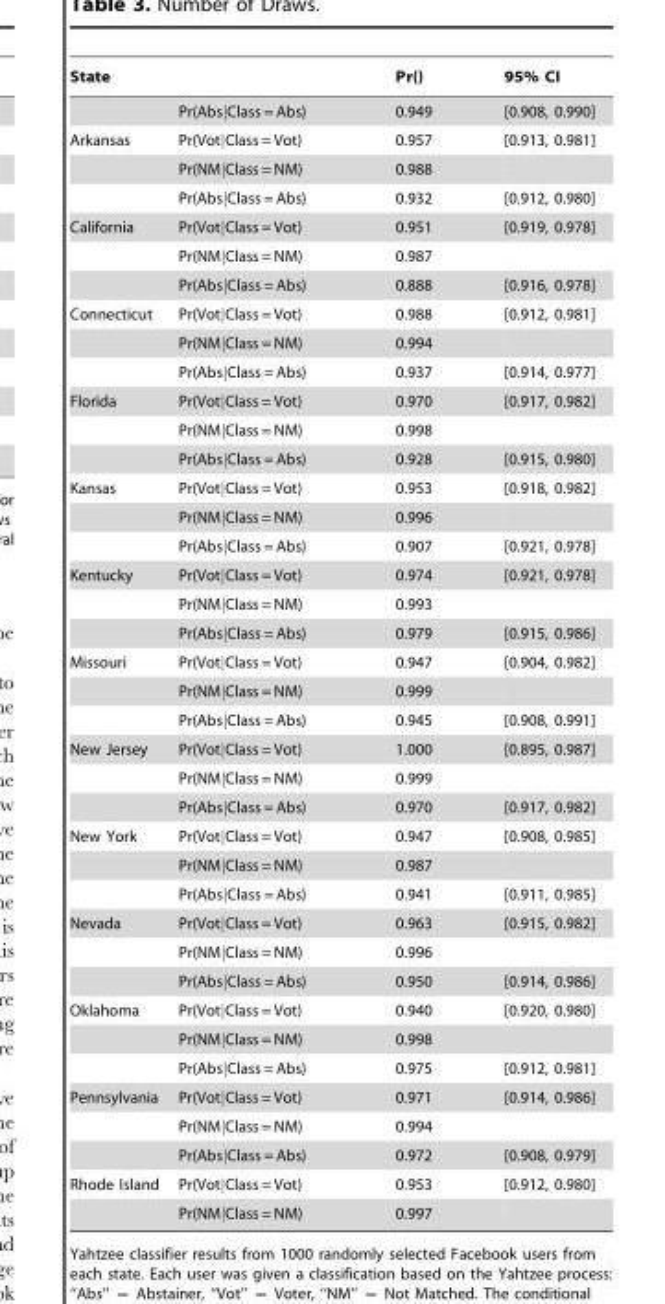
<table><thead><tr><td>State</td><td></td><td>Pr()</td><td>95% CI</td></tr></thead><tbody><tr><td></td><td>Pr(AbsjClass = Abs)</td><td>0.949</td><td>[0.908, 0.990]</td></tr><tr><td rowspan="3">Arkansas</td><td>Pr(VotjClass = Vot)</td><td>0.957</td><td>[0.913, 0.981]</td></tr><tr><td>Pr(NMjClass = NM)</td><td>0.988</td><td></td></tr><tr><td>Pr(AbsjClass = Abs)</td><td>0.932</td><td>[0.912, 0.980]</td></tr><tr><td rowspan="3">California</td><td>Pr(VotjClass = Vot)</td><td>0.951</td><td>[0.919, 0.978]</td></tr><tr><td>Pr(NMjClass = NM)</td><td>0.987</td><td></td></tr><tr><td>Pr(AbsjClass = Abs)</td><td>0.888</td><td>[0.916, 0.978]</td></tr><tr><td rowspan="3">Connecticut</td><td>Pr(VotjClass = Vot)</td><td>0.988</td><td>[0.912, 0.981]</td></tr><tr><td>Pr(NMjClass = NM)</td><td>0.994</td><td></td></tr><tr><td>Pr(AbsjClass = Abs)</td><td>0.937</td><td>[0.914, 0.977]</td></tr><tr><td rowspan="3">Florida</td><td>Pr(VotjClass = Vot)</td><td>0.970</td><td>[0.917, 0.982]</td></tr><tr><td>Pr(NMjClass = NM)</td><td>0.998</td><td></td></tr><tr><td>Pr(AbsjClass = Abs)</td><td>0.928</td><td>[0.915, 0.980]</td></tr><tr><td rowspan="3">Kansas</td><td>Pr(VotjClass = Vot)</td><td>0.953</td><td>[0.918, 0.982]</td></tr><tr><td>Pr(NMjClass = NM)</td><td>0.996</td><td></td></tr><tr><td>Pr(AbsjClass = Abs)</td><td>0.907</td><td>[0.921, 0.978]</td></tr><tr><td rowspan="3">Kentucky</td><td>Pr(VotjClass = Vot)</td><td>0.974</td><td>[0.921, 0.978]</td></tr><tr><td>Pr(NMjClass = NM)</td><td>0.993</td><td></td></tr><tr><td>Pr(AbsjClass = Abs)</td><td>0.979</td><td>[0.915, 0.986]</td></tr><tr><td rowspan="3">Missouri</td><td>Pr(VotjClass = Vot)</td><td>0.947</td><td>[0.904, 0.982]</td></tr><tr><td>Pr(NMjClass = NM)</td><td>0.999</td><td></td></tr><tr><td>Pr(AbsjClass = Abs)</td><td>0.945</td><td>[0.908, 0.991]</td></tr><tr><td rowspan="3">New Jersey</td><td>Pr(VotjClass = Vot)</td><td>1.000</td><td>[0.895, 0.987]</td></tr><tr><td>Pr(NMjClass = NM)</td><td>0.999</td><td></td></tr><tr><td>Pr(AbsjClass = Abs)</td><td>0.970</td><td>[0.917, 0.982]</td></tr><tr><td rowspan="3">New York</td><td>Pr(VotjClass = Vot)</td><td>0.947</td><td>[0.908, 0.985]</td></tr><tr><td>Pr(NMjClass = NM)</td><td>0.987</td><td></td></tr><tr><td>Pr(AbsjClass = Abs)</td><td>0.941</td><td>[0.911, 0.985]</td></tr><tr><td rowspan="3">Nevada</td><td>Pr(VotjClass = Vot)</td><td>0.963</td><td>[0.915, 0.982]</td></tr><tr><td>Pr(NMjClass = NM)</td><td>0.996</td><td></td></tr><tr><td>Pr(AbsjClass = Abs)</td><td>0.950</td><td>[0.914, 0.986]</td></tr><tr><td rowspan="3">Oklahoma</td><td>Pr(VotjClass = Vot)</td><td>0.940</td><td>[0.920, 0.980]</td></tr><tr><td>Pr(NMjClass = NM)</td><td>0.998</td><td></td></tr><tr><td>Pr(AbsjClass = Abs)</td><td>0.975</td><td>[0.912, 0.981]</td></tr><tr><td rowspan="3">Pennsylvania</td><td>Pr(VotjClass = Vot)</td><td>0.971</td><td>[0.914, 0.986]</td></tr><tr><td>Pr(NMjClass = NM)</td><td>0.994</td><td></td></tr><tr><td>Pr(AbsjClass = Abs)</td><td>0.972</td><td>[0.908, 0.979]</td></tr><tr><td rowspan="2">Rhode Island</td><td>Pr(VotjClass = Vot)</td><td>0.953</td><td>[0.912, 0.980]</td></tr><tr><td>Pr(NMjClass = NM)</td><td>0.997</td><td></td></tr></tbody></table>